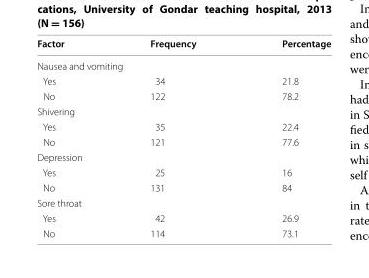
<table><thead><tr><td>Factor</td><td>Frequency</td><td>Percentage</td></tr></thead><tbody><tr><td colspan="3">Nausea and vomiting</td></tr><tr><td>Yes</td><td>34</td><td>21.8</td></tr><tr><td>No</td><td>122</td><td>78.2</td></tr><tr><td colspan="3">Shivering</td></tr><tr><td>Yes</td><td>35</td><td>22.4</td></tr><tr><td>No</td><td>121</td><td>77.6</td></tr><tr><td colspan="3">Depression</td></tr><tr><td>Yes</td><td>25</td><td>16</td></tr><tr><td>No</td><td>131</td><td>84</td></tr><tr><td colspan="3">Sore throat</td></tr><tr><td>Yes</td><td>42</td><td>26.9</td></tr><tr><td>No</td><td>114</td><td>73.1</td></tr></tbody></table>